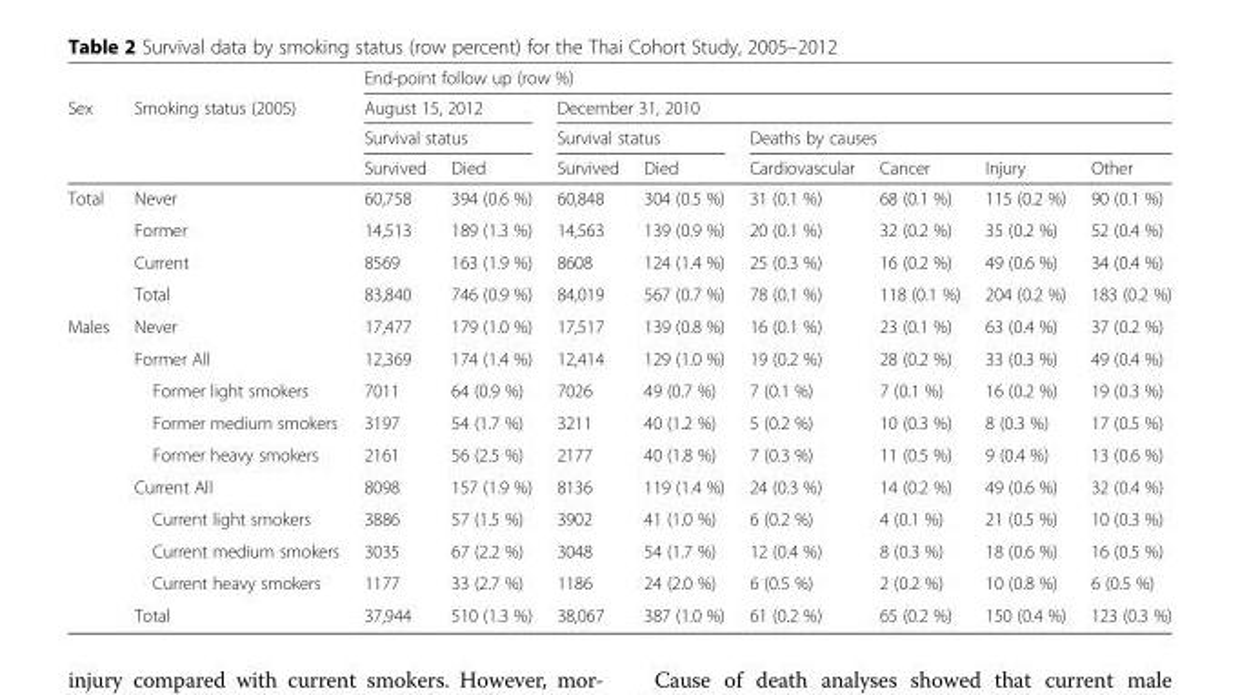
<table><thead><tr><td rowspan="4">Sex</td><td rowspan="4">Smoking status (2005)</td><td colspan="8">End-point follow up (row %)</td></tr><tr><td rowspan="2" colspan="2">August 15, 2012 Survival status</td><td colspan="6">December 31, 2010</td></tr><tr><td colspan="2">Survival status</td><td colspan="4">Deaths by causes</td></tr><tr><td>Survived</td><td>Died</td><td>Survived</td><td>Died</td><td>Cardiovascular</td><td>Cancer</td><td>Injury</td><td>Other</td></tr></thead><tbody><tr><td rowspan="4">Total</td><td>Never</td><td>60,758</td><td>394 (0.6 %)</td><td>60,848</td><td>304 (0.5 %)</td><td>31 (0.1 %)</td><td>68 (0.1 %)</td><td>115 (0.2 %)</td><td>90 (0.1 %)</td></tr><tr><td>Former</td><td>14,513</td><td>189 (1.3 %)</td><td>14,563</td><td>139 (0.9 %)</td><td>20 (0.1 %)</td><td>32 (0.2 %)</td><td>35 (0.2 %)</td><td>52 (0.4 %)</td></tr><tr><td>Current</td><td>8569</td><td>163 (1.9 %)</td><td>8608</td><td>124 (1.4 %)</td><td>25 (0.3 %)</td><td>16 (0.2 %)</td><td>49 (0.6 %)</td><td>34 (0.4 %)</td></tr><tr><td>Total</td><td>83,840</td><td>746 (0.9 %)</td><td>84,019</td><td>567 (0.7 %)</td><td>78 (0.1 %)</td><td>118 (0.1 %)</td><td>204 (0.2 %)</td><td>183 (0.2 %)</td></tr><tr><td rowspan="10">Males</td><td>Never</td><td>17,477</td><td>179 (1.0 %)</td><td>17,517</td><td>139 (0.8 %)</td><td>16 (0.1 %)</td><td>23 (0.1 %)</td><td>63 (0.4 %)</td><td>37 (0.2 %)</td></tr><tr><td>Former All</td><td>12,369</td><td>174 (1.4 %)</td><td>12,414</td><td>129 (1.0 %)</td><td>19 (0.2 %)</td><td>28 (0.2 %)</td><td>33 (0.3 %)</td><td>49 (0.4 %)</td></tr><tr><td>Former light smokers</td><td>7011</td><td>64 (0.9 %)</td><td>7026</td><td>49 (0.7 %)</td><td>7 (0.1 %)</td><td>7 (0.1 %)</td><td>16 (0.2 %)</td><td>19 (0.3 %)</td></tr><tr><td>Former medium smokers</td><td>3197</td><td>54 (1.7 %)</td><td>3211</td><td>40 (1.2 %)</td><td>5 (0.2 %)</td><td>10 (0.3 %)</td><td>8 (0.3 %)</td><td>17 (0.5 %)</td></tr><tr><td>Former heavy smokers</td><td>2161</td><td>56 (2.5 %)</td><td>2177</td><td>40 (1.8 %)</td><td>7 (0.3 %)</td><td>11 (0.5 %)</td><td>9 (0.4 %)</td><td>13 (0.6 %)</td></tr><tr><td>Current All</td><td>8098</td><td>157 (1.9 %)</td><td>8136</td><td>119 (1.4 %)</td><td>24 (0.3 %)</td><td>14 (0.2 %)</td><td>49 (0.6 %)</td><td>32 (0.4 %)</td></tr><tr><td>Current light smokers</td><td>3886</td><td>57 (1.5 %)</td><td>3902</td><td>41 (1.0 %)</td><td>6 (0.2 %)</td><td>4 (0.1 %)</td><td>21 (0.5 %)</td><td>10 (0.3 %)</td></tr><tr><td>Current medium smokers</td><td>3035</td><td>67 (2.2 %)</td><td>3048</td><td>54 (1.7 %)</td><td>12 (0.4 %)</td><td>8 (0.3 %)</td><td>18 (0.6 %)</td><td>16 (0.5 %)</td></tr><tr><td>Current heavy smokers</td><td>1177</td><td>33 (2.7 %)</td><td>1186</td><td>24 (2.0 %)</td><td>6 (0.5 %)</td><td>2 (0.2 %)</td><td>10 (0.8 %)</td><td>6 (0.5 %)</td></tr><tr><td>Total</td><td>37,944</td><td>510 (1.3 %)</td><td>38,067</td><td>387 (1.0 %)</td><td>61 (0.2 %)</td><td>65 (0.2 %)</td><td>150 (0.4 %)</td><td>123 (0.3 %)</td></tr></tbody></table>